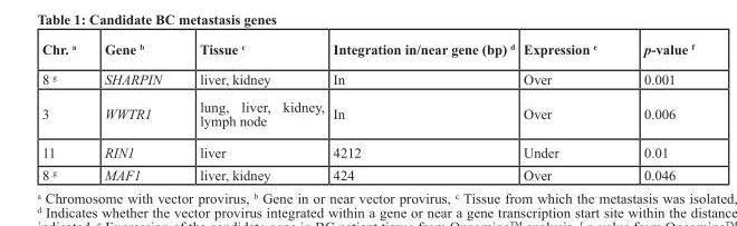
<table><thead><tr><td>Chr. <sup>a</sup></td><td>Gene <sup>b</sup></td><td>Tissue <sup>c</sup></td><td>Integration in/near gene (bp) <sup>d</sup></td><td>Expression <sup>e</sup></td><td>p-value <sup>f</sup></td></tr></thead><tbody><tr><td>8 <sup>g</sup></td><td>SHARPIN</td><td>liver, kidney</td><td>In</td><td>Over</td><td>0.001</td></tr><tr><td>3</td><td>WWTR1</td><td>lung, liver, kidney, lymph node</td><td>In</td><td>Over</td><td>0.006</td></tr><tr><td>11</td><td>RIN1</td><td>liver</td><td>4212</td><td>Under</td><td>0.01</td></tr><tr><td>8 <sup>g</sup></td><td>MAF1</td><td>liver, kidney</td><td>424</td><td>Over</td><td>0.046</td></tr></tbody></table>